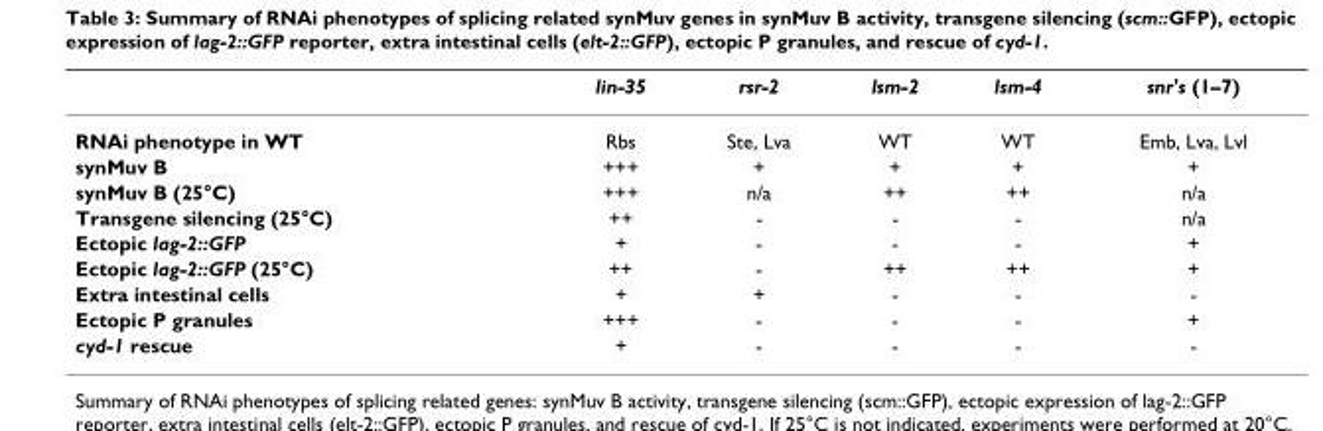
<table><thead><tr><td></td><td>lin-35</td><td>rsr-2</td><td>lsm-2</td><td>lsm-4</td><td>snr&#x27;s (1–7)</td></tr></thead><tbody><tr><td>RNAi phenotype in WT</td><td>Rbs</td><td>Ste, Lva</td><td>WT</td><td>WT</td><td>Emb, Lva, Lvl</td></tr><tr><td>synMuv B</td><td>+++</td><td>+</td><td>+</td><td>+</td><td>+</td></tr><tr><td>synMuv B (25°C)</td><td>+++</td><td>n/a</td><td>++</td><td>++</td><td>n/a</td></tr><tr><td>Transgene silencing (25°C)</td><td>++</td><td>-</td><td>-</td><td>-</td><td>n/a</td></tr><tr><td>Ectopic lag-2::GFP</td><td>+</td><td>-</td><td>-</td><td>-</td><td>+</td></tr><tr><td>Ectopic lag-2::GFP (25°C)</td><td>++</td><td>-</td><td>++</td><td>++</td><td>+</td></tr><tr><td>Extra intestinal cells</td><td>+</td><td>+</td><td>-</td><td>-</td><td>-</td></tr><tr><td>Ectopic P granules</td><td>+++</td><td>-</td><td>-</td><td>-</td><td>+</td></tr><tr><td>cyd-1 rescue</td><td>+</td><td>-</td><td>-</td><td>-</td><td>-</td></tr></tbody></table>